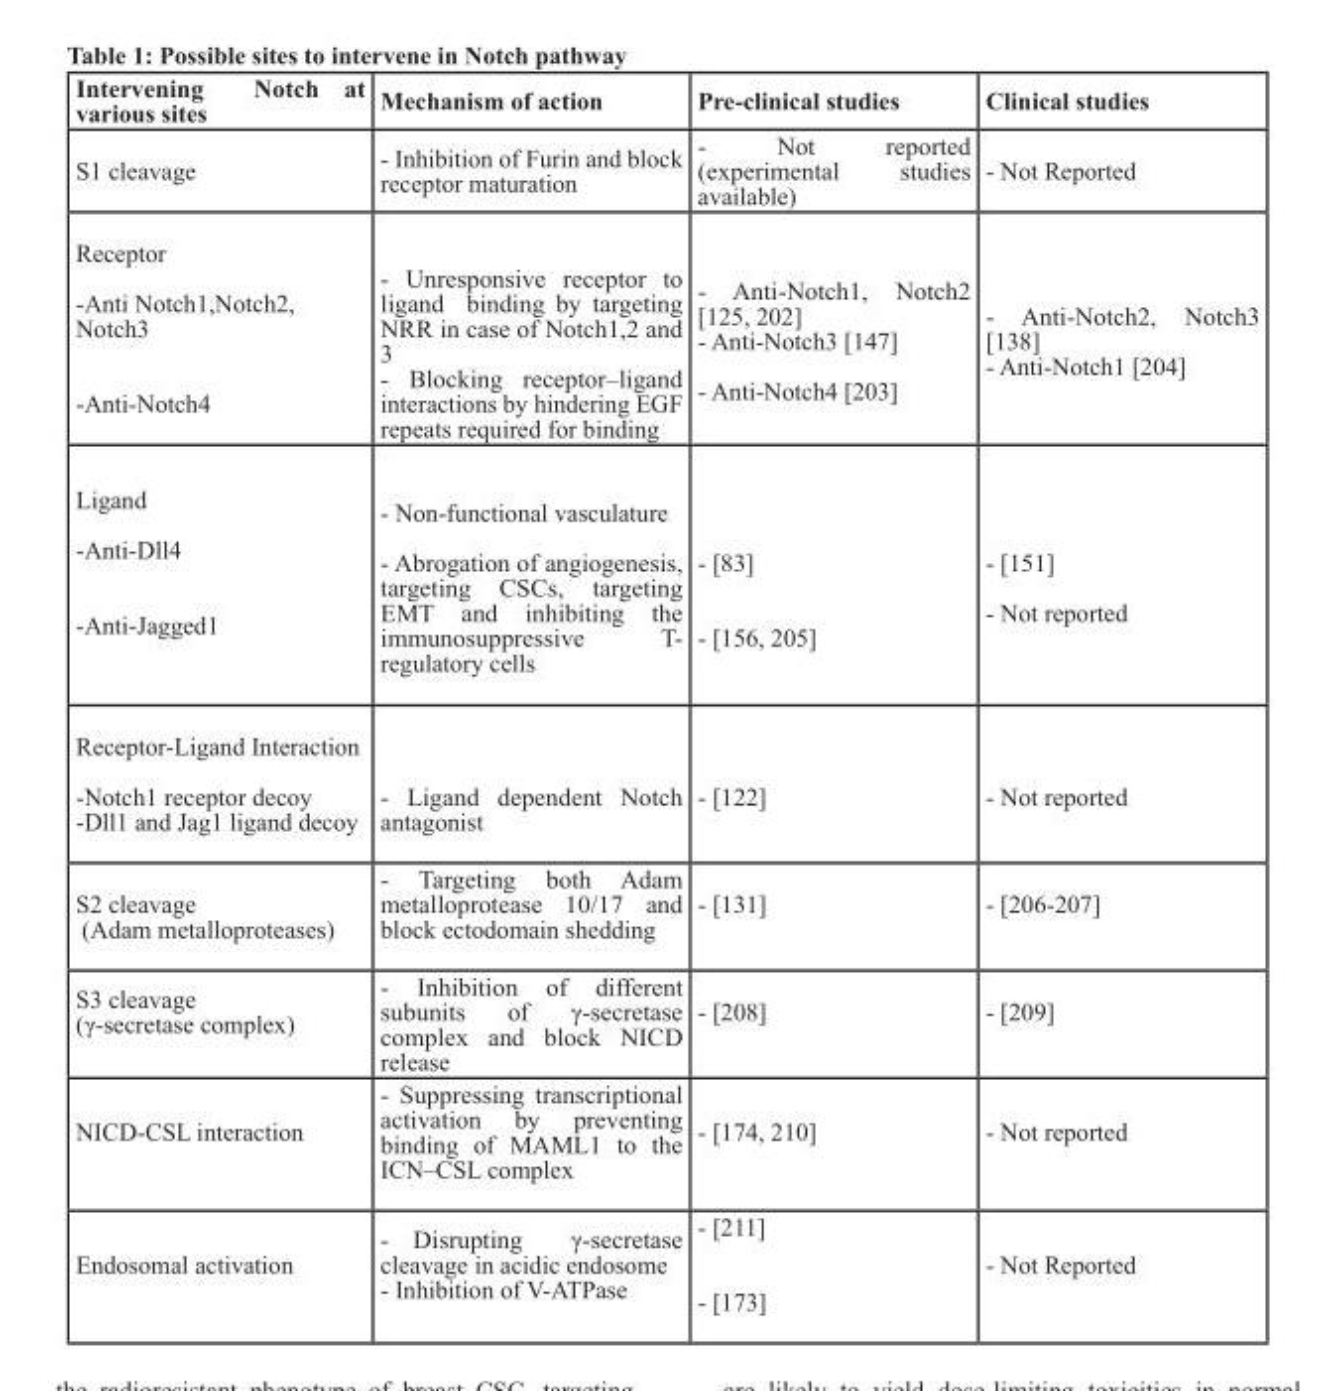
<table><thead><tr><td>Intervening Notch at various sites</td><td>Mechanism of action</td><td>Pre-clinical studies</td><td>Clinical studies</td></tr></thead><tbody><tr><td>S1 cleavage</td><td>- Inhibition of Furin and block receptor maturation</td><td>- Not reported (experimental studies available)</td><td>- Not Reported</td></tr><tr><td>Receptor -Anti Notch1,Notch2, Notch3 -Anti-Notch4</td><td>- Unresponsive receptor to ligand binding by targeting NRR in case of Notch1,2 and 3 - Blocking receptor–ligand interactions by hindering EGF repeats required for binding</td><td>- Anti-Notch1, Notch2 [125, 202] - Anti-Notch3 [147] - Anti-Notch4 [203]</td><td>- Anti-Notch2, Notch3 [138] - Anti-Notch1 [204]</td></tr><tr><td>Ligand -Anti-Dll4 -Anti-Jagged1</td><td>- Non-functional vasculature - Abrogation of angiogenesis, targeting CSCs, targeting EMT and inhibiting the immunosuppressive T- regulatory cells</td><td>- [83] - [156, 205]</td><td>- [151] - Not reported</td></tr><tr><td>Receptor-Ligand Interaction -Notch1 receptor decoy -Dll1 and Jag1 ligand decoy</td><td>- Ligand dependent Notch antagonist</td><td>- [122]</td><td>- Not reported</td></tr><tr><td>S2 cleavage (Adam metalloproteases)</td><td>- Targeting both Adam metalloprotease 10/17 and block ectodomain shedding</td><td>- [131]</td><td>- [206-207]</td></tr><tr><td>S3 cleavage (γ-secretase complex)</td><td>- Inhibition of different subunits of γ-secretase complex and block NICD release</td><td>- [208]</td><td>- [209]</td></tr><tr><td>NICD-CSL interaction</td><td>- Suppressing transcriptional activation by preventing binding of MAML1 to the ICN–CSL complex</td><td>- [174, 210]</td><td>- Not reported</td></tr><tr><td>Endosomal activation</td><td>- Disrupting γ-secretase cleavage in acidic endosome - Inhibition of V-ATPase</td><td>- [211] - [173]</td><td>- Not Reported</td></tr></tbody></table>